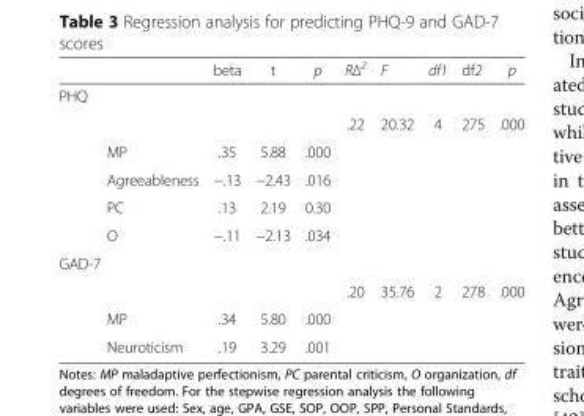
<table><thead><tr><td></td><td>beta</td><td>t</td><td>p</td><td>RΔ2</td><td>F</td><td>df1</td><td>df2</td><td>p</td></tr></thead><tbody><tr><td colspan="9">PHQ</td></tr><tr><td></td><td></td><td></td><td></td><td>.22</td><td>20.32</td><td>4</td><td>275</td><td>.000</td></tr><tr><td>MP</td><td>.35</td><td>5.88</td><td>.000</td><td></td><td></td><td></td><td></td><td></td></tr><tr><td>Agreeableness</td><td>−.13</td><td>−2.43</td><td>.016</td><td></td><td></td><td></td><td></td><td></td></tr><tr><td>PC</td><td>.13</td><td>2.19</td><td>0.30</td><td></td><td></td><td></td><td></td><td></td></tr><tr><td>O</td><td>−.11</td><td>−2.13</td><td>.034</td><td></td><td></td><td></td><td></td><td></td></tr><tr><td colspan="9">GAD-7</td></tr><tr><td></td><td></td><td></td><td></td><td>.20</td><td>35.76</td><td>2</td><td>278</td><td>.000</td></tr><tr><td>MP</td><td>.34</td><td>5.80</td><td>.000</td><td></td><td></td><td></td><td></td><td></td></tr><tr><td>Neuroticism</td><td>.19</td><td>3.29</td><td>.001</td><td></td><td></td><td></td><td></td><td></td></tr></tbody></table>